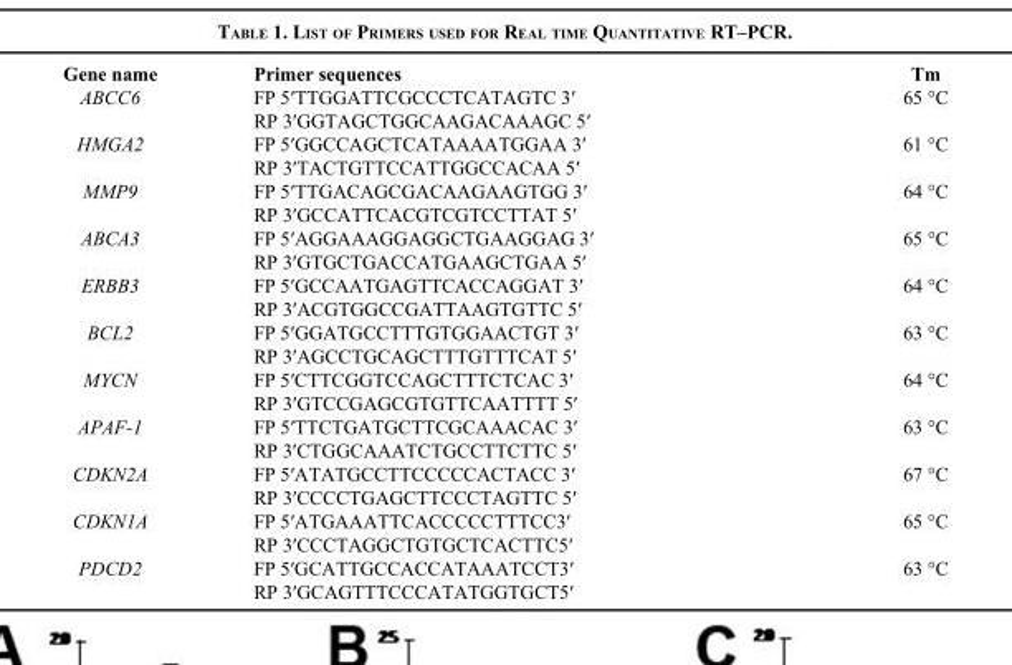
<table><thead><tr><td>Gene name</td><td>Primer sequences</td><td>Tm</td></tr></thead><tbody><tr><td rowspan="2">ABCC6</td><td>FP 5′TTGGATTCGCCCTCATAGTC 3′</td><td>65 °C</td></tr><tr><td>RP 3′GGTAGCTGGCAAGACAAAGC 5′</td><td></td></tr><tr><td rowspan="2">HMGA2</td><td>FP 5′GGCCAGCTCATAAAATGGAA 3′</td><td>61 °C</td></tr><tr><td>RP 3′TACTGTTCCATTGGCCACAA 5′</td><td></td></tr><tr><td rowspan="2">MMP9</td><td>FP 5′TTGACAGCGACAAGAAGTGG 3′</td><td>64 °C</td></tr><tr><td>RP 3′GCCATTCACGTCGTCCTTAT 5′</td><td></td></tr><tr><td rowspan="2">ABCA3</td><td>FP 5′AGGAAAGGAGGCTGAAGGAG 3′</td><td>65 °C</td></tr><tr><td>RP 3′GTGCTGACCATGAAGCTGAA 5′</td><td></td></tr><tr><td rowspan="2">ERBB3</td><td>FP 5′GCCAATGAGTTCACCAGGAT 3′</td><td>64 °C</td></tr><tr><td>RP 3′ACGTGGCCGATTAAGTGTTC 5′</td><td></td></tr><tr><td rowspan="2">BCL2</td><td>FP 5′GGATGCCTTTGTGGAACTGT 3′</td><td>63 °C</td></tr><tr><td>RP 3′AGCCTGCAGCTTTGTTTCAT 5′</td><td></td></tr><tr><td rowspan="2">MYCN</td><td>FP 5′CTTCGGTCCAGCTTTCTCAC 3′</td><td>64 °C</td></tr><tr><td>RP 3′GTCCGAGCGTGTTCAATTTT 5′</td><td></td></tr><tr><td rowspan="2">APAF-1</td><td>FP 5′TTCTGATGCTTCGCAAACAC 3′</td><td>63 °C</td></tr><tr><td>RP 3′CTGGCAAATCTGCCTTCTTC 5′</td><td></td></tr><tr><td rowspan="2">CDKN2A</td><td>FP 5′ATATGCCTTCCCCCACTACC 3′</td><td>67 °C</td></tr><tr><td>RP 3′CCCCTGAGCTTCCCTAGTTC 5′</td><td></td></tr><tr><td rowspan="2">CDKN1A</td><td>FP 5′ATGAAATTCACCCCCTTTCC3′</td><td>65 °C</td></tr><tr><td>RP 3′CCCTAGGCTGTGCTCACTTC5′</td><td></td></tr><tr><td rowspan="2">PDCD2</td><td>FP 5′GCATTGCCACCATAAATCCT3′</td><td>63 °C</td></tr><tr><td>RP 3′GCAGTTTCCCATATGGTGCT5′</td><td></td></tr></tbody></table>